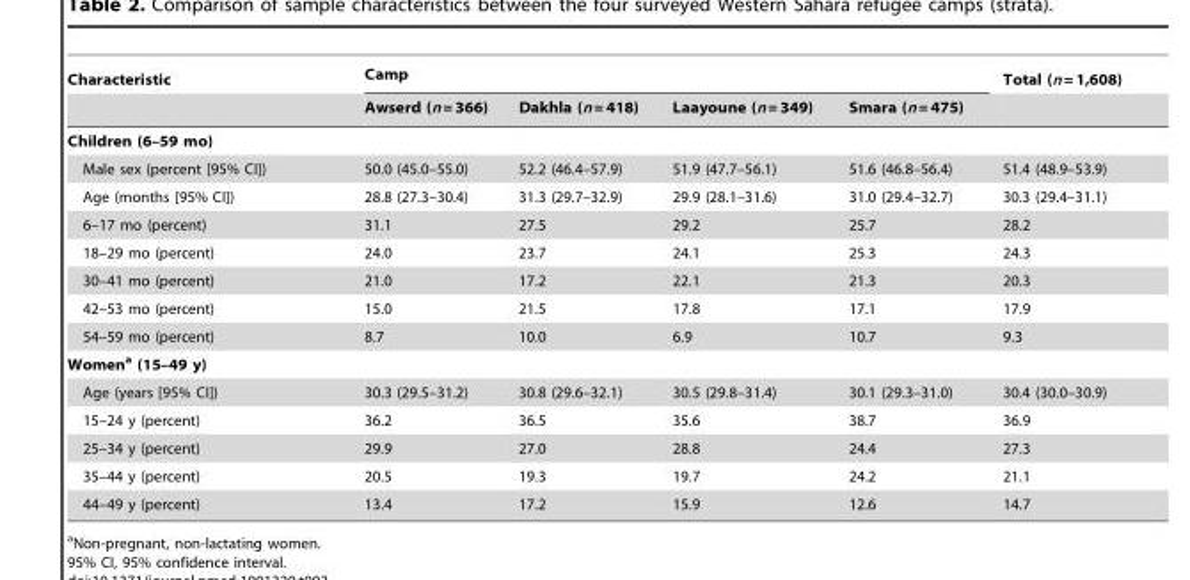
<table><thead><tr><td rowspan="2">Characteristic</td><td colspan="4">Camp</td><td rowspan="2">Total (n = 1,608)</td></tr><tr><td>Awserd (n = 366)</td><td>Dakhla (n = 418)</td><td>Laayoune (n = 349)</td><td>Smara (n = 475)</td></tr></thead><tbody><tr><td colspan="6">Children (6–59 mo)</td></tr><tr><td>Male sex (percent [95% CI])</td><td>50.0 (45.0–55.0)</td><td>52.2 (46.4–57.9)</td><td>51.9 (47.7–56.1)</td><td>51.6 (46.8–56.4)</td><td>51.4 (48.9–53.9)</td></tr><tr><td>Age (months [95% CI])</td><td>28.8 (27.3–30.4)</td><td>31.3 (29.7–32.9)</td><td>29.9 (28.1–31.6)</td><td>31.0 (29.4–32.7)</td><td>30.3 (29.4–31.1)</td></tr><tr><td>6–17 mo (percent)</td><td>31.1</td><td>27.5</td><td>29.2</td><td>25.7</td><td>28.2</td></tr><tr><td>18–29 mo (percent)</td><td>24.0</td><td>23.7</td><td>24.1</td><td>25.3</td><td>24.3</td></tr><tr><td>30–41 mo (percent)</td><td>21.0</td><td>17.2</td><td>22.1</td><td>21.3</td><td>20.3</td></tr><tr><td>42–53 mo (percent)</td><td>15.0</td><td>21.5</td><td>17.8</td><td>17.1</td><td>17.9</td></tr><tr><td>54–59 mo (percent)</td><td>8.7</td><td>10.0</td><td>6.9</td><td>10.7</td><td>9.3</td></tr><tr><td colspan="6">Womena (15–49 y)</td></tr><tr><td>Age (years [95% CI])</td><td>30.3 (29.5–31.2)</td><td>30.8 (29.6–32.1)</td><td>30.5 (29.8–31.4)</td><td>30.1 (29.3–31.0)</td><td>30.4 (30.0–30.9)</td></tr><tr><td>15–24 y (percent)</td><td>36.2</td><td>36.5</td><td>35.6</td><td>38.7</td><td>36.9</td></tr><tr><td>25–34 y (percent)</td><td>29.9</td><td>27.0</td><td>28.8</td><td>24.4</td><td>27.3</td></tr><tr><td>35–44 y (percent)</td><td>20.5</td><td>19.3</td><td>19.7</td><td>24.2</td><td>21.1</td></tr><tr><td>44–49 y (percent)</td><td>13.4</td><td>17.2</td><td>15.9</td><td>12.6</td><td>14.7</td></tr></tbody></table>